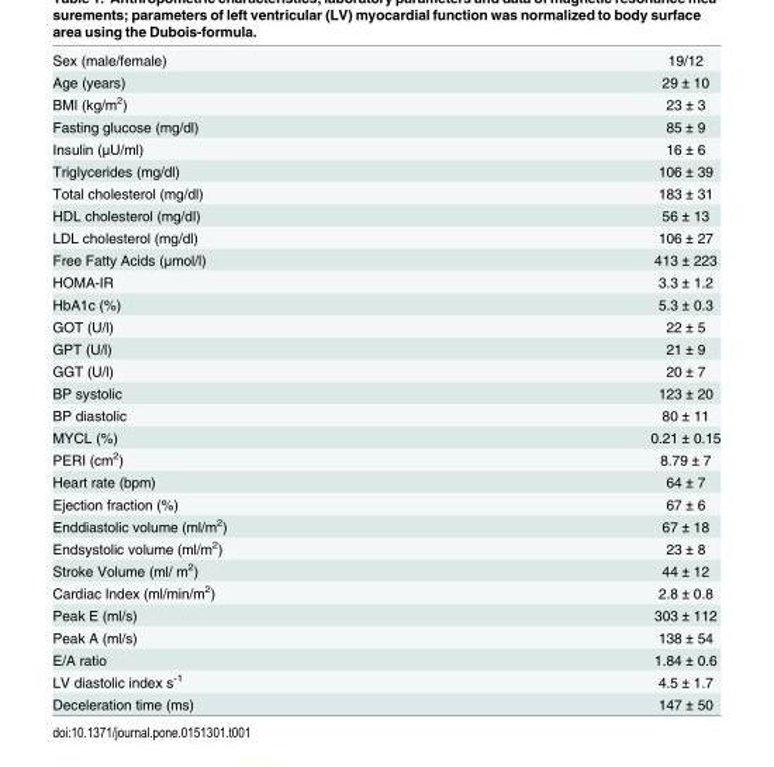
<table><tbody><tr><td>Sex (male/female)</td><td>19/12</td></tr><tr><td>Age (years)</td><td>29 ± 10</td></tr><tr><td>BMI (kg/m<sup>2</sup>)</td><td>23 ± 3</td></tr><tr><td>Fasting glucose (mg/dl)</td><td>85 ± 9</td></tr><tr><td>Insulin (μU/ml)</td><td>16 ± 6</td></tr><tr><td>Triglycerides (mg/dl)</td><td>106 ± 39</td></tr><tr><td>Total cholesterol (mg/dl)</td><td>183 ± 31</td></tr><tr><td>HDL cholesterol (mg/dl)</td><td>56 ± 13</td></tr><tr><td>LDL cholesterol (mg/dl)</td><td>106 ± 27</td></tr><tr><td>Free Fatty Acids (μmol/l)</td><td>413 ± 223</td></tr><tr><td>HOMA-IR</td><td>3.3 ± 1.2</td></tr><tr><td>HbA1c (%)</td><td>5.3 ± 0.3</td></tr><tr><td>GOT (U/l)</td><td>22 ± 5</td></tr><tr><td>GPT (U/l)</td><td>21 ± 9</td></tr><tr><td>GGT (U/l)</td><td>20 ± 7</td></tr><tr><td>BP systolic</td><td>123 ± 20</td></tr><tr><td>BP diastolic</td><td>80 ± 11</td></tr><tr><td>MYCL (%)</td><td>0.21 ± 0.15</td></tr><tr><td>PERI (cm<sup>2</sup>)</td><td>8.79 ± 7</td></tr><tr><td>Heart rate (bpm)</td><td>64 ± 7</td></tr><tr><td>Ejection fraction (%)</td><td>67 ± 6</td></tr><tr><td>Enddiastolic volume (ml/m<sup>2</sup>)</td><td>67 ± 18</td></tr><tr><td>Endsystolic volume (ml/m<sup>2</sup>)</td><td>23 ± 8</td></tr><tr><td>Stroke Volume (ml/ m<sup>2</sup>)</td><td>44 ± 12</td></tr><tr><td>Cardiac Index (ml/min/m<sup>2</sup>)</td><td>2.8 ± 0.8</td></tr><tr><td>Peak E (ml/s)</td><td>303 ± 112</td></tr><tr><td>Peak A (ml/s)</td><td>138 ± 54</td></tr><tr><td>E/A ratio</td><td>1.84 ± 0.6</td></tr><tr><td>LV diastolic index s<sup>-1</sup></td><td>4.5 ± 1.7</td></tr><tr><td>Deceleration time (ms)</td><td>147 ± 50</td></tr></tbody></table>